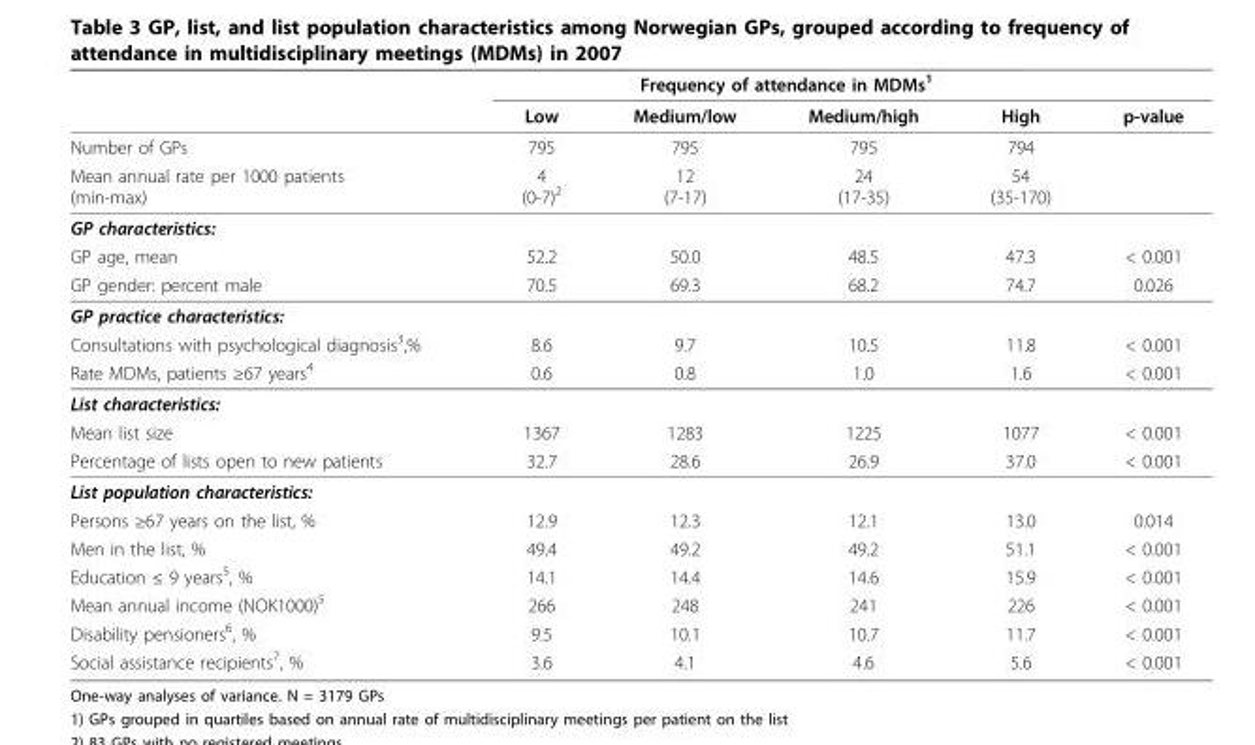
<table><thead><tr><td rowspan="2"></td><td colspan="4">Frequency of attendance in MDMs<sup>1</sup></td><td rowspan="2">p-value</td></tr><tr><td>Low</td><td>Medium/low</td><td>Medium/high</td><td>High</td></tr></thead><tbody><tr><td>Number of GPs</td><td>795</td><td>795</td><td>795</td><td>794</td><td></td></tr><tr><td>Mean annual rate per 1000 patients (min-max)</td><td>4 (0-7)<sup>2</sup></td><td>12 (7-17)</td><td>24 (17-35)</td><td>54 (35-170)</td><td></td></tr><tr><td colspan="6">GP characteristics:</td></tr><tr><td>GP age, mean</td><td>52.2</td><td>50.0</td><td>48.5</td><td>47.3</td><td>&lt; 0.001</td></tr><tr><td>GP gender: percent male</td><td>70.5</td><td>69.3</td><td>68.2</td><td>74.7</td><td>0.026</td></tr><tr><td colspan="6">GP practice characteristics:</td></tr><tr><td>Consultations with psychological diagnosis<sup>3</sup>,%</td><td>8.6</td><td>9.7</td><td>10.5</td><td>11.8</td><td>&lt; 0.001</td></tr><tr><td>Rate MDMs, patients ≥67 years<sup>4</sup></td><td>0.6</td><td>0.8</td><td>1.0</td><td>1.6</td><td>&lt; 0.001</td></tr><tr><td colspan="6">List characteristics:</td></tr><tr><td>Mean list size</td><td>1367</td><td>1283</td><td>1225</td><td>1077</td><td>&lt; 0.001</td></tr><tr><td>Percentage of lists open to new patients</td><td>32.7</td><td>28.6</td><td>26.9</td><td>37.0</td><td>&lt; 0.001</td></tr><tr><td colspan="6">List population characteristics:</td></tr><tr><td>Persons ≥67 years on the list, %</td><td>12.9</td><td>12.3</td><td>12.1</td><td>13.0</td><td>0.014</td></tr><tr><td>Men in the list, %</td><td>49.4</td><td>49.2</td><td>49.2</td><td>51.1</td><td>&lt; 0.001</td></tr><tr><td>Education ≤ 9 years<sup>5</sup>, %</td><td>14.1</td><td>14.4</td><td>14.6</td><td>15.9</td><td>&lt; 0.001</td></tr><tr><td>Mean annual income (NOK1000)<sup>5</sup></td><td>266</td><td>248</td><td>241</td><td>226</td><td>&lt; 0.001</td></tr><tr><td>Disability pensioners<sup>6</sup>, %</td><td>9.5</td><td>10.1</td><td>10.7</td><td>11.7</td><td>&lt; 0.001</td></tr><tr><td>Social assistance recipients<sup>7</sup>, %</td><td>3.6</td><td>4.1</td><td>4.6</td><td>5.6</td><td>&lt; 0.001</td></tr></tbody></table>